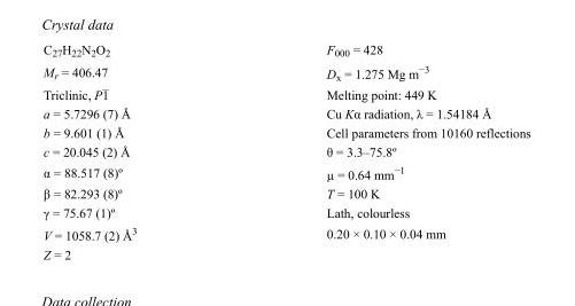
<table><tbody><tr><td>C<sub>27</sub>H<sub>22</sub>N<sub>2</sub>O<sub>2</sub></td><td>F000 = 428</td></tr><tr><td>M<sub>r</sub> = 406.47</td><td>D<sub>x</sub> = 1.275 Mg m<sup>−3</sup></td></tr><tr><td>Triclinic, P1</td><td>Melting point: 449 K</td></tr><tr><td>a = 5.7296 (7) Å</td><td>Cu Kα radiation, λ = 1.54184 Å</td></tr><tr><td>b = 9.601 (1) Å</td><td>Cell parameters from 10160 reflections</td></tr><tr><td>c = 20.045 (2) Å</td><td>θ = 3.3–75.8º</td></tr><tr><td>α = 88.517 (8)º</td><td>µ = 0.64 mm<sup>−1</sup></td></tr><tr><td>β = 82.293 (8)º</td><td>T = 100 K</td></tr><tr><td>γ = 75.67 (1)º</td><td>Lath, colourless</td></tr><tr><td>V = 1058.7 (2) Å<sup>3</sup></td><td>0.20 × 0.10 × 0.04 mm</td></tr><tr><td>Z = 2</td><td></td></tr></tbody></table>